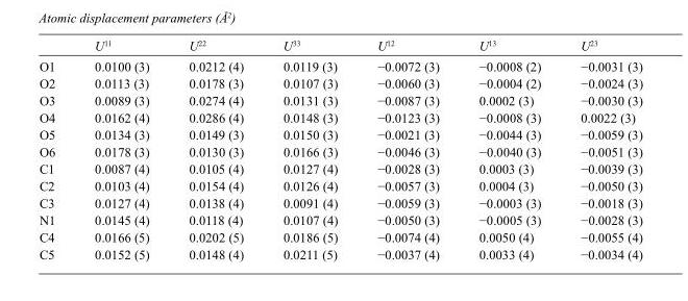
<table><thead><tr><td></td><td>U<sup>11</sup></td><td>U<sup>22</sup></td><td>U<sup>33</sup></td><td>U<sup>12</sup></td><td>U<sup>13</sup></td><td>U<sup>23</sup></td></tr></thead><tbody><tr><td>O1</td><td>0.0100 (3)</td><td>0.0212 (4)</td><td>0.0119 (3)</td><td>−0.0072 (3)</td><td>−0.0008 (2)</td><td>−0.0031 (3)</td></tr><tr><td>O2</td><td>0.0113 (3)</td><td>0.0178 (3)</td><td>0.0107 (3)</td><td>−0.0060 (3)</td><td>−0.0004 (2)</td><td>−0.0024 (3)</td></tr><tr><td>O3</td><td>0.0089 (3)</td><td>0.0274 (4)</td><td>0.0131 (3)</td><td>−0.0087 (3)</td><td>0.0002 (3)</td><td>−0.0030 (3)</td></tr><tr><td>O4</td><td>0.0162 (4)</td><td>0.0286 (4)</td><td>0.0148 (3)</td><td>−0.0123 (3)</td><td>−0.0008 (3)</td><td>0.0022 (3)</td></tr><tr><td>O5</td><td>0.0134 (3)</td><td>0.0149 (3)</td><td>0.0150 (3)</td><td>−0.0021 (3)</td><td>−0.0044 (3)</td><td>−0.0059 (3)</td></tr><tr><td>O6</td><td>0.0178 (3)</td><td>0.0130 (3)</td><td>0.0166 (3)</td><td>−0.0046 (3)</td><td>−0.0040 (3)</td><td>−0.0051 (3)</td></tr><tr><td>C1</td><td>0.0087 (4)</td><td>0.0105 (4)</td><td>0.0127 (4)</td><td>−0.0028 (3)</td><td>0.0003 (3)</td><td>−0.0039 (3)</td></tr><tr><td>C2</td><td>0.0103 (4)</td><td>0.0154 (4)</td><td>0.0126 (4)</td><td>−0.0057 (3)</td><td>0.0004 (3)</td><td>−0.0050 (3)</td></tr><tr><td>C3</td><td>0.0127 (4)</td><td>0.0138 (4)</td><td>0.0091 (4)</td><td>−0.0059 (3)</td><td>−0.0003 (3)</td><td>−0.0018 (3)</td></tr><tr><td>N1</td><td>0.0145 (4)</td><td>0.0118 (4)</td><td>0.0107 (4)</td><td>−0.0050 (3)</td><td>−0.0005 (3)</td><td>−0.0028 (3)</td></tr><tr><td>C4</td><td>0.0166 (5)</td><td>0.0202 (5)</td><td>0.0186 (5)</td><td>−0.0074 (4)</td><td>0.0050 (4)</td><td>−0.0055 (4)</td></tr><tr><td>C5</td><td>0.0152 (5)</td><td>0.0148 (4)</td><td>0.0211 (5)</td><td>−0.0037 (4)</td><td>0.0033 (4)</td><td>−0.0034 (4)</td></tr></tbody></table>